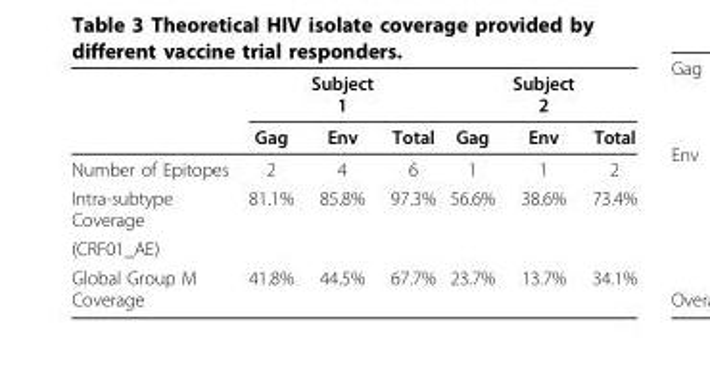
<table><thead><tr><td rowspan="2"></td><td rowspan="2">Gag</td><td rowspan="2">Subject 1 Env</td><td rowspan="2">Total</td><td rowspan="2">Gag</td><td rowspan="2">Subject 2 Env</td><td rowspan="2">Total</td></tr><tr></tr></thead><tbody><tr><td>Number of Epitopes</td><td>2</td><td>4</td><td>6</td><td>1</td><td>1</td><td>2</td></tr><tr><td>Intra-subtype Coverage</td><td>81.1%</td><td>85.8%</td><td>97.3%</td><td>56.6%</td><td>38.6%</td><td>73.4%</td></tr><tr><td colspan="7">(CRF01_AE)</td></tr><tr><td>Global Group M Coverage</td><td>41.8%</td><td>44.5%</td><td>67.7%</td><td>23.7%</td><td>13.7%</td><td>34.1%</td></tr></tbody></table>